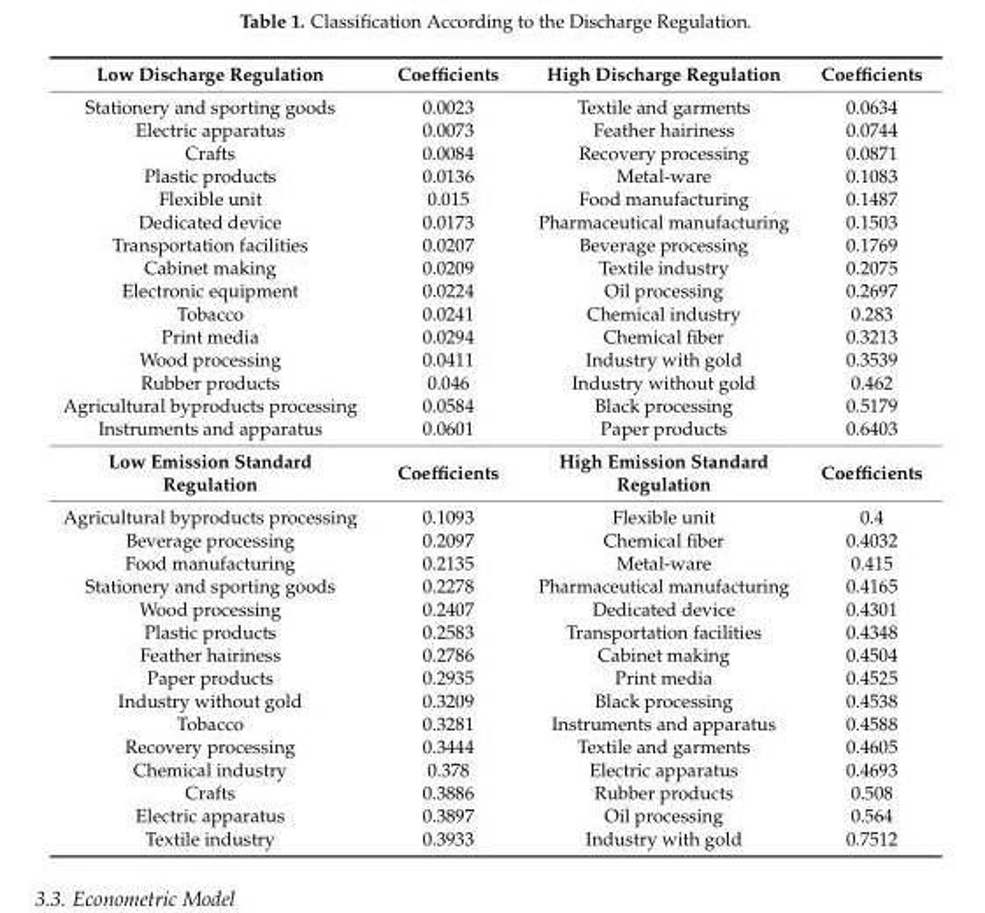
<table><tbody><tr><td>Low Discharge Regulation</td><td>Coefficients</td><td>High Discharge Regulation</td><td>Coefficients</td></tr><tr><td>Stationery and sporting goods</td><td>0.0023</td><td>Textile and garments</td><td>0.0634</td></tr><tr><td>Electric apparatus</td><td>0.0073</td><td>Feather hairiness</td><td>0.0744</td></tr><tr><td>Crafts</td><td>0.0084</td><td>Recovery processing</td><td>0.0871</td></tr><tr><td>Plastic products</td><td>0.0136</td><td>Metal-ware</td><td>0.1083</td></tr><tr><td>Flexible unit</td><td>0.015</td><td>Food manufacturing</td><td>0.1487</td></tr><tr><td>Dedicated device</td><td>0.0173</td><td>Pharmaceutical manufacturing</td><td>0.1503</td></tr><tr><td>Transportation facilities</td><td>0.0207</td><td>Beverage processing</td><td>0.1769</td></tr><tr><td>Cabinet making</td><td>0.0209</td><td>Textile industry</td><td>0.2075</td></tr><tr><td>Electronic equipment</td><td>0.0224</td><td>Oil processing</td><td>0.2697</td></tr><tr><td>Tobacco</td><td>0.0241</td><td>Chemical industry</td><td>0.283</td></tr><tr><td>Print media</td><td>0.0294</td><td>Chemical fiber</td><td>0.3213</td></tr><tr><td>Wood processing</td><td>0.0411</td><td>Industry with gold</td><td>0.3539</td></tr><tr><td>Rubber products</td><td>0.046</td><td>Industry without gold</td><td>0.462</td></tr><tr><td>Agricultural byproducts processing</td><td>0.0584</td><td>Black processing</td><td>0.5179</td></tr><tr><td>Instruments and apparatus</td><td>0.0601</td><td>Paper products</td><td>0.6403</td></tr><tr><td>Low Emission Standard Regulation</td><td>Coefficients</td><td>High Emission Standard Regulation</td><td>Coefficients</td></tr><tr><td>Agricultural byproducts processing</td><td>0.1093</td><td>Flexible unit</td><td>0.4</td></tr><tr><td>Beverage processing</td><td>0.2097</td><td>Chemical fiber</td><td>0.4032</td></tr><tr><td>Food manufacturing</td><td>0.2135</td><td>Metal-ware</td><td>0.415</td></tr><tr><td>Stationery and sporting goods</td><td>0.2278</td><td>Pharmaceutical manufacturing</td><td>0.4165</td></tr><tr><td>Wood processing</td><td>0.2407</td><td>Dedicated device</td><td>0.4301</td></tr><tr><td>Plastic products</td><td>0.2583</td><td>Transportation facilities</td><td>0.4348</td></tr><tr><td>Feather hairiness</td><td>0.2786</td><td>Cabinet making</td><td>0.4504</td></tr><tr><td>Paper products</td><td>0.2935</td><td>Print media</td><td>0.4525</td></tr><tr><td>Industry without gold</td><td>0.3209</td><td>Black processing</td><td>0.4538</td></tr><tr><td>Tobacco</td><td>0.3281</td><td>Instruments and apparatus</td><td>0.4588</td></tr><tr><td>Recovery processing</td><td>0.3444</td><td>Textile and garments</td><td>0.4605</td></tr><tr><td>Chemical industry</td><td>0.378</td><td>Electric apparatus</td><td>0.4693</td></tr><tr><td>Crafts</td><td>0.3886</td><td>Rubber products</td><td>0.508</td></tr><tr><td>Electric apparatus</td><td>0.3897</td><td>Oil processing</td><td>0.564</td></tr><tr><td>Textile industry</td><td>0.3933</td><td>Industry with gold</td><td>0.7512</td></tr></tbody></table>